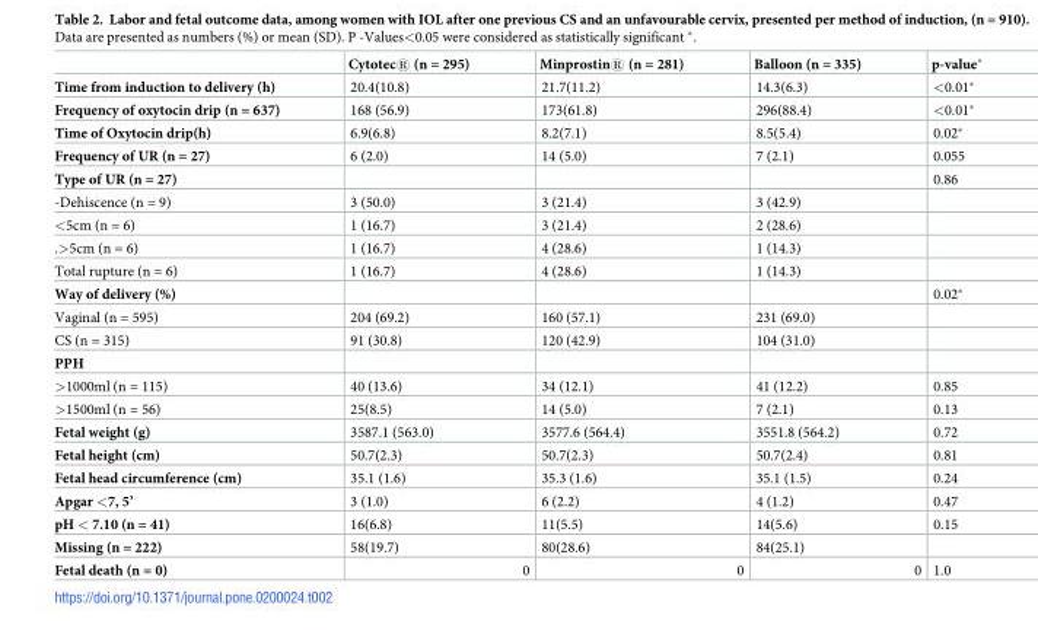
<table><thead><tr><td></td><td>Cytotec® (n = 295)</td><td>Minprostin® (n = 281)</td><td>Balloon (n = 335)</td><td>p-value*</td></tr></thead><tbody><tr><td>Time from induction to delivery (h)</td><td>20.4(10.8)</td><td>21.7(11.2)</td><td>14.3(6.3)</td><td>&lt;0.01*</td></tr><tr><td>Frequency of oxytocin drip (n = 637)</td><td>168 (56.9)</td><td>173(61.8)</td><td>296(88.4)</td><td>&lt;0.01*</td></tr><tr><td>Time of Oxytocin drip(h)</td><td>6.9(6.8)</td><td>8.2(7.1)</td><td>8.5(5.4)</td><td>0.02*</td></tr><tr><td>Frequency of UR (n = 27)</td><td>6 (2.0)</td><td>14 (5.0)</td><td>7 (2.1)</td><td>0.055</td></tr><tr><td>Type of UR (n = 27)</td><td></td><td></td><td></td><td>0.86</td></tr><tr><td>-Dehiscence (n = 9)</td><td>3 (50.0)</td><td>3 (21.4)</td><td>3 (42.9)</td><td></td></tr><tr><td>&lt;5cm (n = 6)</td><td>1 (16.7)</td><td>3 (21.4)</td><td>2 (28.6)</td><td></td></tr><tr><td>.&gt;5cm (n = 6)</td><td>1 (16.7)</td><td>4 (28.6)</td><td>1 (14.3)</td><td></td></tr><tr><td>Total rupture (n = 6)</td><td>1 (16.7)</td><td>4 (28.6)</td><td>1 (14.3)</td><td></td></tr><tr><td>Way of delivery (%)</td><td></td><td></td><td></td><td>0.02*</td></tr><tr><td>Vaginal (n = 595)</td><td>204 (69.2)</td><td>160 (57.1)</td><td>231 (69.0)</td><td></td></tr><tr><td>CS (n = 315)</td><td>91 (30.8)</td><td>120 (42.9)</td><td>104 (31.0)</td><td></td></tr><tr><td colspan="5">PPH</td></tr><tr><td>&gt;1000ml (n = 115)</td><td>40 (13.6)</td><td>34 (12.1)</td><td>41 (12.2)</td><td>0.85</td></tr><tr><td>&gt;1500ml (n = 56)</td><td>25(8.5)</td><td>14 (5.0)</td><td>7 (2.1)</td><td>0.13</td></tr><tr><td>Fetal weight (g)</td><td>3587.1 (563.0)</td><td>3577.6 (564.4)</td><td>3551.8 (564.2)</td><td>0.72</td></tr><tr><td>Fetal height (cm)</td><td>50.7(2.3)</td><td>50.7(2.3)</td><td>50.7(2.4)</td><td>0.81</td></tr><tr><td>Fetal head circumference (cm)</td><td>35.1 (1.6)</td><td>35.3 (1.6)</td><td>35.1 (1.5)</td><td>0.24</td></tr><tr><td>Apgar &lt;7, 5’</td><td>3 (1.0)</td><td>6 (2.2)</td><td>4 (1.2)</td><td>0.47</td></tr><tr><td>pH &lt; 7.10 (n = 41)</td><td>16(6.8)</td><td>11(5.5)</td><td>14(5.6)</td><td>0.15</td></tr><tr><td>Missing (n = 222)</td><td>58(19.7)</td><td>80(28.6)</td><td>84(25.1)</td><td></td></tr><tr><td>Fetal death (n = 0)</td><td>0</td><td>0</td><td>0</td><td>1.0</td></tr></tbody></table>